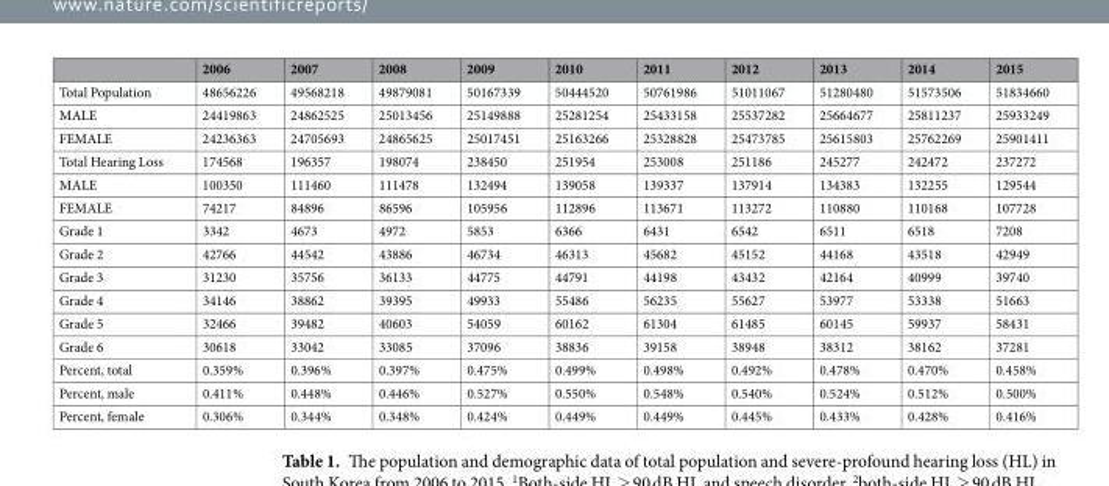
<table><thead><tr><td></td><td>2006</td><td>2007</td><td>2008</td><td>2009</td><td>2010</td><td>2011</td><td>2012</td><td>2013</td><td>2014</td><td>2015</td></tr></thead><tbody><tr><td>Total Population</td><td>48656226</td><td>49568218</td><td>49879081</td><td>50167339</td><td>50444520</td><td>50761986</td><td>51011067</td><td>51280480</td><td>51573506</td><td>51834660</td></tr><tr><td>MALE</td><td>24419863</td><td>24862525</td><td>25013456</td><td>25149888</td><td>25281254</td><td>25433158</td><td>25537282</td><td>25664677</td><td>25811237</td><td>25933249</td></tr><tr><td>FEMALE</td><td>24236363</td><td>24705693</td><td>24865625</td><td>25017451</td><td>25163266</td><td>25328828</td><td>25473785</td><td>25615803</td><td>25762269</td><td>25901411</td></tr><tr><td>Total Hearing Loss</td><td>174568</td><td>196357</td><td>198074</td><td>238450</td><td>251954</td><td>253008</td><td>251186</td><td>245277</td><td>242472</td><td>237272</td></tr><tr><td>MALE</td><td>100350</td><td>111460</td><td>111478</td><td>132494</td><td>139058</td><td>139337</td><td>137914</td><td>134383</td><td>132255</td><td>129544</td></tr><tr><td>FEMALE</td><td>74217</td><td>84896</td><td>86596</td><td>105956</td><td>112896</td><td>113671</td><td>113272</td><td>110880</td><td>110168</td><td>107728</td></tr><tr><td>Grade 1</td><td>3342</td><td>4673</td><td>4972</td><td>5853</td><td>6366</td><td>6431</td><td>6542</td><td>6511</td><td>6518</td><td>7208</td></tr><tr><td>Grade 2</td><td>42766</td><td>44542</td><td>43886</td><td>46734</td><td>46313</td><td>45682</td><td>45152</td><td>44168</td><td>43518</td><td>42949</td></tr><tr><td>Grade 3</td><td>31230</td><td>35756</td><td>36133</td><td>44775</td><td>44791</td><td>44198</td><td>43432</td><td>42164</td><td>40999</td><td>39740</td></tr><tr><td>Grade 4</td><td>34146</td><td>38862</td><td>39395</td><td>49933</td><td>55486</td><td>56235</td><td>55627</td><td>53977</td><td>53338</td><td>51663</td></tr><tr><td>Grade 5</td><td>32466</td><td>39482</td><td>40603</td><td>54059</td><td>60162</td><td>61304</td><td>61485</td><td>60145</td><td>59937</td><td>58431</td></tr><tr><td>Grade 6</td><td>30618</td><td>33042</td><td>33085</td><td>37096</td><td>38836</td><td>39158</td><td>38948</td><td>38312</td><td>38162</td><td>37281</td></tr><tr><td>Percent, total</td><td>0.359%</td><td>0.396%</td><td>0.397%</td><td>0.475%</td><td>0.499%</td><td>0.498%</td><td>0.492%</td><td>0.478%</td><td>0.470%</td><td>0.458%</td></tr><tr><td>Percent, male</td><td>0.411%</td><td>0.448%</td><td>0.446%</td><td>0.527%</td><td>0.550%</td><td>0.548%</td><td>0.540%</td><td>0.524%</td><td>0.512%</td><td>0.500%</td></tr><tr><td>Percent, female</td><td>0.306%</td><td>0.344%</td><td>0.348%</td><td>0.424%</td><td>0.449%</td><td>0.449%</td><td>0.445%</td><td>0.433%</td><td>0.428%</td><td>0.416%</td></tr></tbody></table>